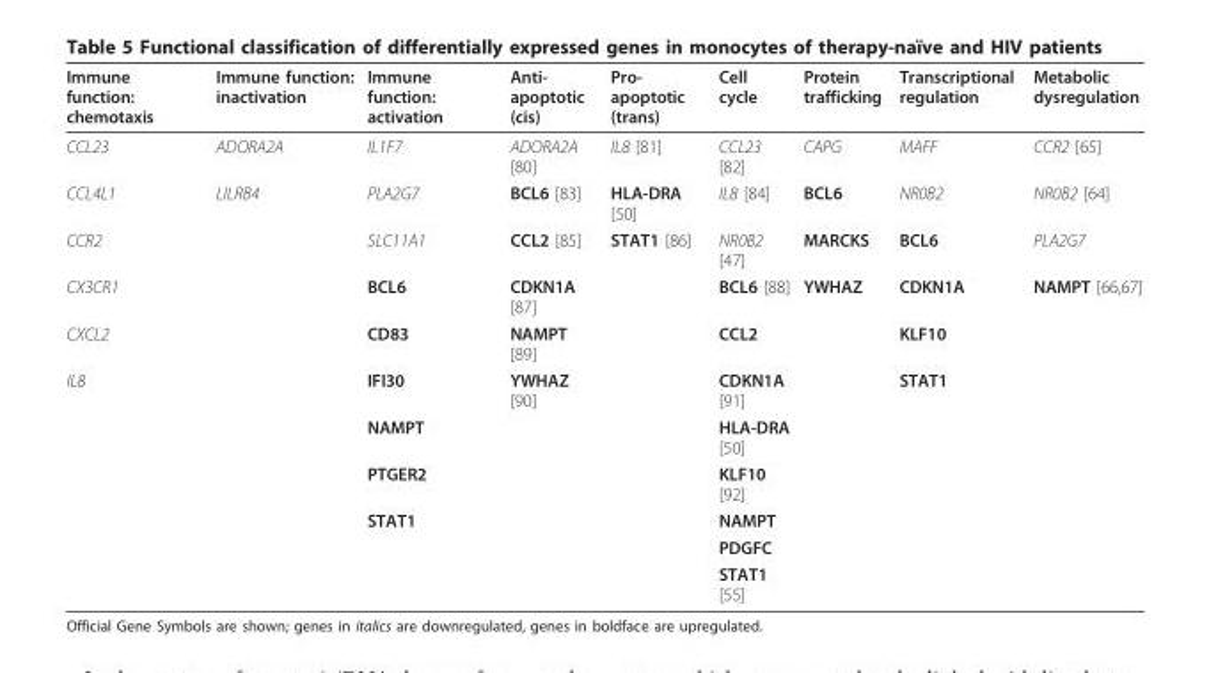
<table><thead><tr><td>Immune function: chemotaxis</td><td>Immune function: inactivation</td><td>Immune function: activation</td><td>Anti- apoptotic (cis)</td><td>Pro- apoptotic (trans)</td><td>Cell cycle</td><td>Protein trafficking</td><td>Transcriptional regulation</td><td>Metabolic dysregulation</td></tr></thead><tbody><tr><td>CCL23</td><td>ADORA2A</td><td>IL1F7</td><td>ADORA2A [80]</td><td>IL8 [81]</td><td>CCL23 [82]</td><td>CAPG</td><td>MAFF</td><td>CCR2 [65]</td></tr><tr><td>CCL4L1</td><td>LILRB4</td><td>PLA2G7</td><td>BCL6 [83]</td><td>HLA-DRA [50]</td><td>IL8 [84]</td><td>BCL6</td><td>NR0B2</td><td>NR0B2 [64]</td></tr><tr><td>CCR2</td><td></td><td>SLC11A1</td><td>CCL2 [85]</td><td>STAT1 [86]</td><td>NR0B2 [47]</td><td>MARCKS</td><td>BCL6</td><td>PLA2G7</td></tr><tr><td>CX3CR1</td><td></td><td>BCL6</td><td>CDKN1A [87]</td><td></td><td>BCL6 [88]</td><td>YWHAZ</td><td>CDKN1A</td><td>NAMPT [66,67]</td></tr><tr><td>CXCL2</td><td></td><td>CD83</td><td>NAMPT [89]</td><td></td><td>CCL2</td><td></td><td>KLF10</td><td></td></tr><tr><td rowspan="6">IL8</td><td></td><td>IFI30</td><td>YWHAZ [90]</td><td></td><td>CDKN1A [91]</td><td></td><td>STAT1</td><td></td></tr><tr><td></td><td>NAMPT</td><td></td><td></td><td>HLA-DRA [50]</td><td></td><td></td><td></td></tr><tr><td></td><td>PTGER2</td><td></td><td></td><td>KLF10 [92]</td><td></td><td></td><td></td></tr><tr><td></td><td>STAT1</td><td></td><td></td><td>NAMPT</td><td></td><td></td><td></td></tr><tr><td></td><td></td><td></td><td></td><td>PDGFC</td><td></td><td></td><td></td></tr><tr><td></td><td></td><td></td><td></td><td>STAT1 [55]</td><td></td><td></td><td></td></tr></tbody></table>